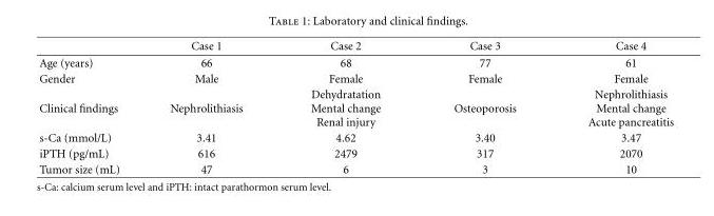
<table><thead><tr><td></td><td>Case 1</td><td>Case 2</td><td>Case 3</td><td>Case 4</td></tr></thead><tbody><tr><td>Age (years)</td><td>66</td><td>68</td><td>77</td><td>61</td></tr><tr><td>Gender</td><td>Male</td><td>Female</td><td>Female</td><td>Female</td></tr><tr><td>Clinical findings</td><td>Nephrolithiasis</td><td>Dehydratation Mental change Renal injury</td><td>Osteoporosis</td><td>Nephrolithiasis Mental change Acute pancreatitis</td></tr><tr><td>s-Ca (mmol/L)</td><td>3.41</td><td>4.62</td><td>3.40</td><td>3.47</td></tr><tr><td>iPTH (pg/mL)</td><td>616</td><td>2479</td><td>317</td><td>2070</td></tr><tr><td>Tumor size (mL)</td><td>47</td><td>6</td><td>3</td><td>10</td></tr></tbody></table>